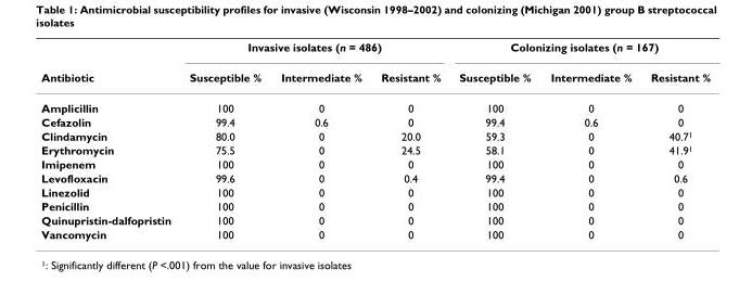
<table><thead><tr><td rowspan="2">Antibiotic</td><td colspan="3">Invasive isolates (n = 486)</td><td colspan="3">Colonizing isolates (n = 167)</td></tr><tr><td>Susceptible %</td><td>Intermediate %</td><td>Resistant %</td><td>Susceptible %</td><td>Intermediate %</td><td>Resistant %</td></tr></thead><tbody><tr><td>Amplicillin</td><td>100</td><td>0</td><td>0</td><td>100</td><td>0</td><td>0</td></tr><tr><td>Cefazolin</td><td>99.4</td><td>0.6</td><td>0</td><td>99.4</td><td>0.6</td><td>0</td></tr><tr><td>Clindamycin</td><td>80.0</td><td>0</td><td>20.0</td><td>59.3</td><td>0</td><td>40.7<sup>1</sup></td></tr><tr><td>Erythromycin</td><td>75.5</td><td>0</td><td>24.5</td><td>58.1</td><td>0</td><td>41.9<sup>1</sup></td></tr><tr><td>Imipenem</td><td>100</td><td>0</td><td>0</td><td>100</td><td>0</td><td>0</td></tr><tr><td>Levofloxacin</td><td>99.6</td><td>0</td><td>0.4</td><td>99.4</td><td>0</td><td>0.6</td></tr><tr><td>Linezolid</td><td>100</td><td>0</td><td>0</td><td>100</td><td>0</td><td>0</td></tr><tr><td>Penicillin</td><td>100</td><td>0</td><td>0</td><td>100</td><td>0</td><td>0</td></tr><tr><td>Quinupristin-dalfopristin</td><td>100</td><td>0</td><td>0</td><td>100</td><td>0</td><td>0</td></tr><tr><td>Vancomycin</td><td>100</td><td>0</td><td>0</td><td>100</td><td>0</td><td>0</td></tr></tbody></table>